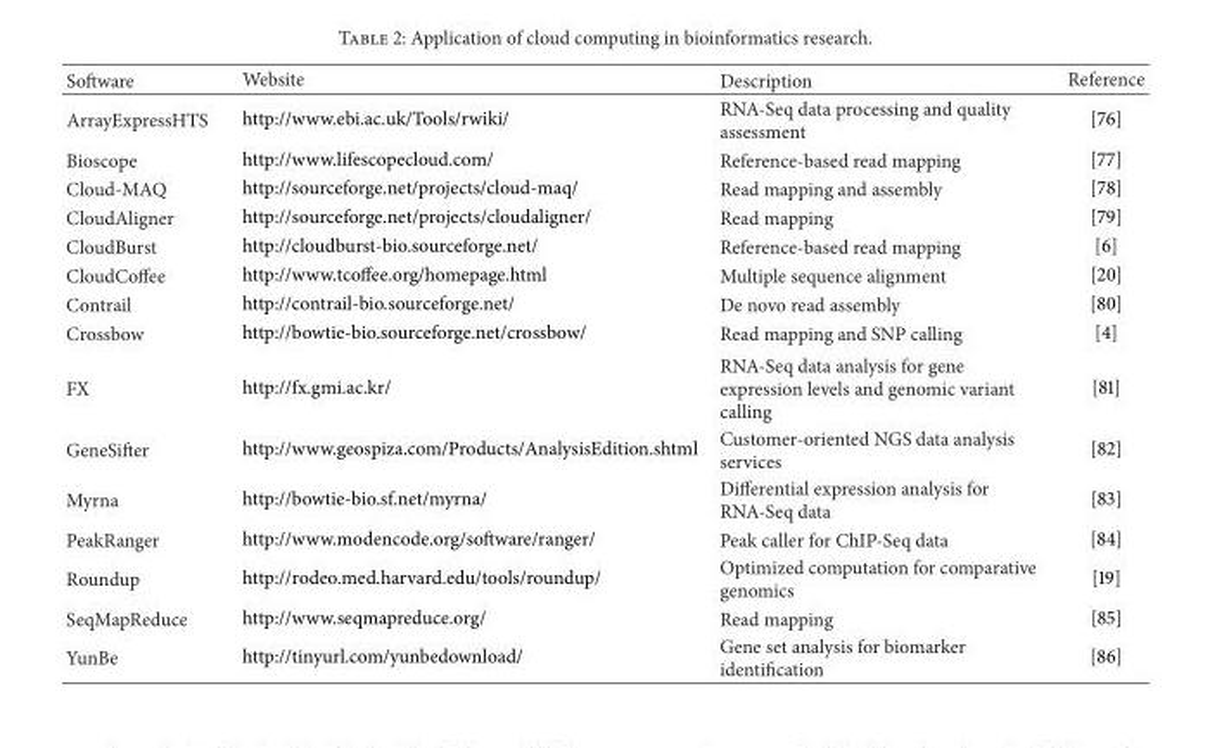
<table><thead><tr><td>Software</td><td>Website</td><td>Description</td><td>Reference</td></tr></thead><tbody><tr><td>ArrayExpressHTS</td><td>http://www.ebi.ac.uk/Tools/rwiki/</td><td>RNA-Seq data processing and quality assessment</td><td>[76]</td></tr><tr><td>Bioscope</td><td>http://www.lifescopecloud.com/</td><td>Reference-based read mapping</td><td>[77]</td></tr><tr><td>Cloud-MAQ</td><td>http://sourceforge.net/projects/cloud-maq/</td><td>Read mapping and assembly</td><td>[78]</td></tr><tr><td>CloudAligner</td><td>http://sourceforge.net/projects/cloudaligner/</td><td>Read mapping</td><td>[79]</td></tr><tr><td>CloudBurst</td><td>http://cloudburst-bio.sourceforge.net/</td><td>Reference-based read mapping</td><td>[6]</td></tr><tr><td>CloudCoffee</td><td>http://www.tcoffee.org/homepage.html</td><td>Multiple sequence alignment</td><td>[20]</td></tr><tr><td>Contrail</td><td>http://contrail-bio.sourceforge.net/</td><td>De novo read assembly</td><td>[80]</td></tr><tr><td>Crossbow</td><td>http://bowtie-bio.sourceforge.net/crossbow/</td><td>Read mapping and SNP calling</td><td>[4]</td></tr><tr><td>FX</td><td>http://fx.gmi.ac.kr/</td><td>RNA-Seq data analysis for gene expression levels and genomic variant calling</td><td>[81]</td></tr><tr><td>GeneSifter</td><td>http://www.geospiza.com/Products/AnalysisEdition.shtml</td><td>Customer-oriented NGS data analysis services</td><td>[82]</td></tr><tr><td>Myrna</td><td>http://bowtie-bio.sf.net/myrna/</td><td>Differential expression analysis for RNA-Seq data</td><td>[83]</td></tr><tr><td>PeakRanger</td><td>http://www.modencode.org/software/ranger/</td><td>Peak caller for ChIP-Seq data</td><td>[84]</td></tr><tr><td>Roundup</td><td>http://rodeo.med.harvard.edu/tools/roundup/</td><td>Optimized computation for comparative genomics</td><td>[19]</td></tr><tr><td>SeqMapReduce</td><td>http://www.seqmapreduce.org/</td><td>Read mapping</td><td>[85]</td></tr><tr><td>YunBe</td><td>http://tinyurl.com/yunbedownload/</td><td>Gene set analysis for biomarker identification</td><td>[86]</td></tr></tbody></table>